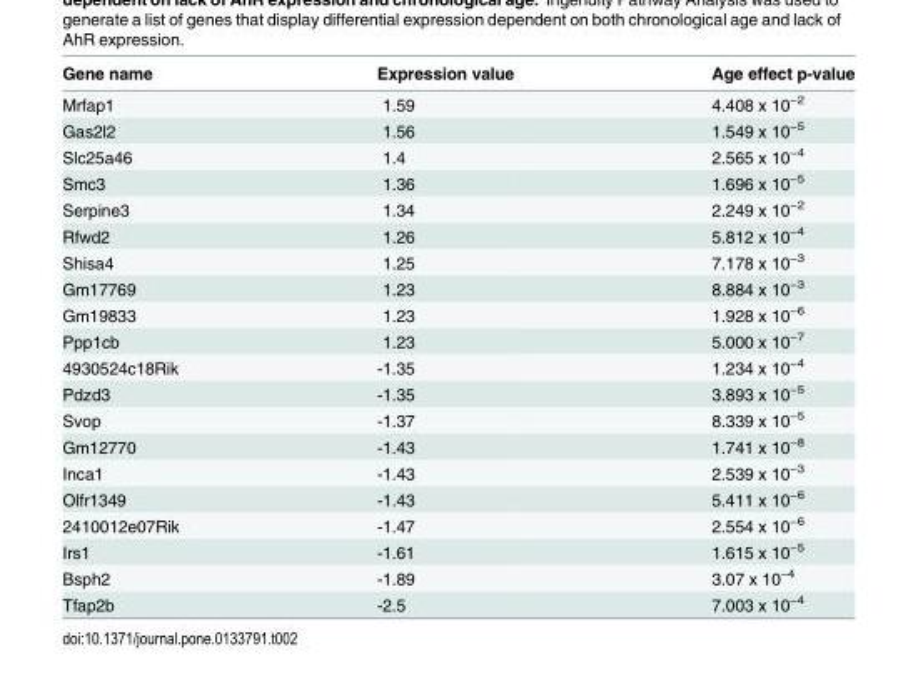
<table><thead><tr><td>Gene name</td><td>Expression value</td><td>Age effect p-value</td></tr></thead><tbody><tr><td>Mrfap1</td><td>1.59</td><td>4.408 x 10<sup>−2</sup></td></tr><tr><td>Gas2l2</td><td>1.56</td><td>1.549 x 10<sup>−5</sup></td></tr><tr><td>Slc25a46</td><td>1.4</td><td>2.565 x 10<sup>−4</sup></td></tr><tr><td>Smc3</td><td>1.36</td><td>1.696 x 10<sup>−5</sup></td></tr><tr><td>Serpine3</td><td>1.34</td><td>2.249 x 10<sup>−2</sup></td></tr><tr><td>Rfwd2</td><td>1.26</td><td>5.812 x 10<sup>−4</sup></td></tr><tr><td>Shisa4</td><td>1.25</td><td>7.178 x 10<sup>−3</sup></td></tr><tr><td>Gm17769</td><td>1.23</td><td>8.884 x 10<sup>−3</sup></td></tr><tr><td>Gm19833</td><td>1.23</td><td>1.928 x 10<sup>−6</sup></td></tr><tr><td>Ppp1cb</td><td>1.23</td><td>5.000 x 10<sup>−7</sup></td></tr><tr><td>4930524c18Rik</td><td>-1.35</td><td>1.234 x 10<sup>−4</sup></td></tr><tr><td>Pdzd3</td><td>-1.35</td><td>3.893 x 10<sup>−5</sup></td></tr><tr><td>Svop</td><td>-1.37</td><td>8.339 x 10<sup>−5</sup></td></tr><tr><td>Gm12770</td><td>-1.43</td><td>1.741 x 10<sup>−8</sup></td></tr><tr><td>Inca1</td><td>-1.43</td><td>2.539 x 10<sup>−3</sup></td></tr><tr><td>Olfr1349</td><td>-1.43</td><td>5.411 x 10<sup>−6</sup></td></tr><tr><td>2410012e07Rik</td><td>-1.47</td><td>2.554 x 10<sup>−6</sup></td></tr><tr><td>Irs1</td><td>-1.61</td><td>1.615 x 10<sup>−5</sup></td></tr><tr><td>Bsph2</td><td>-1.89</td><td>3.07 x 10<sup>−4</sup></td></tr><tr><td>Tfap2b</td><td>-2.5</td><td>7.003 x 10<sup>−4</sup></td></tr></tbody></table>